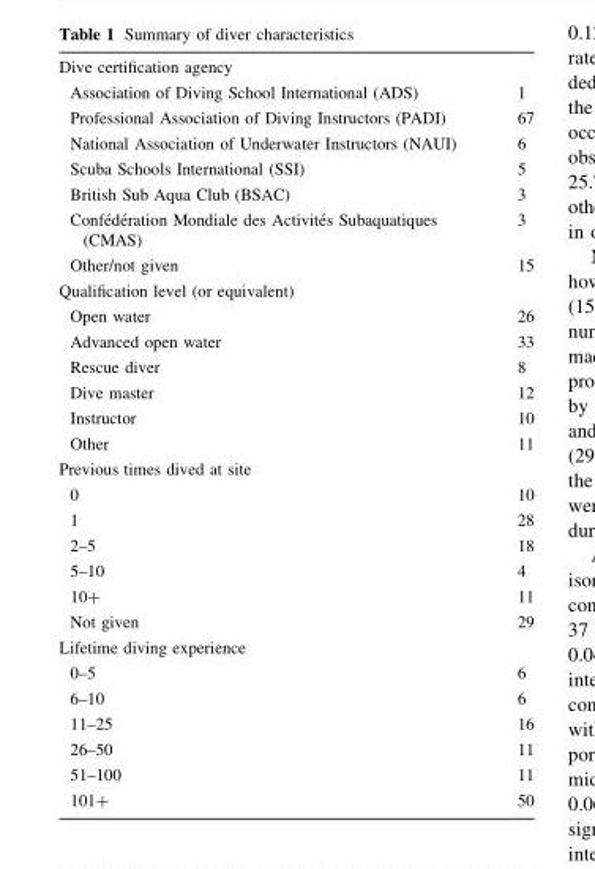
<table><tbody><tr><td colspan="2">Dive certification agency</td></tr><tr><td>Association of Diving School International (ADS)</td><td>1</td></tr><tr><td>Professional Association of Diving Instructors (PADI)</td><td>67</td></tr><tr><td>National Association of Underwater Instructors (NAUI)</td><td>6</td></tr><tr><td>Scuba Schools International (SSI)</td><td>5</td></tr><tr><td>British Sub Aqua Club (BSAC)</td><td>3</td></tr><tr><td>Confe´de´ration Mondiale des Activite´s Subaquatiques (CMAS)</td><td>3</td></tr><tr><td>Other/not given</td><td>15</td></tr><tr><td colspan="2">Qualification level (or equivalent)</td></tr><tr><td>Open water</td><td>26</td></tr><tr><td>Advanced open water</td><td>33</td></tr><tr><td>Rescue diver</td><td>8</td></tr><tr><td>Dive master</td><td>12</td></tr><tr><td>Instructor</td><td>10</td></tr><tr><td>Other</td><td>11</td></tr><tr><td colspan="2">Previous times dived at site</td></tr><tr><td>0</td><td>10</td></tr><tr><td>1</td><td>28</td></tr><tr><td>2–5</td><td>18</td></tr><tr><td>5–10</td><td>4</td></tr><tr><td>10+</td><td>11</td></tr><tr><td>Not given</td><td>29</td></tr><tr><td colspan="2">Lifetime diving experience</td></tr><tr><td>0–5</td><td>6</td></tr><tr><td>6–10</td><td>6</td></tr><tr><td>11–25</td><td>16</td></tr><tr><td>26–50</td><td>11</td></tr><tr><td>51–100</td><td>11</td></tr><tr><td>101+</td><td>50</td></tr></tbody></table>